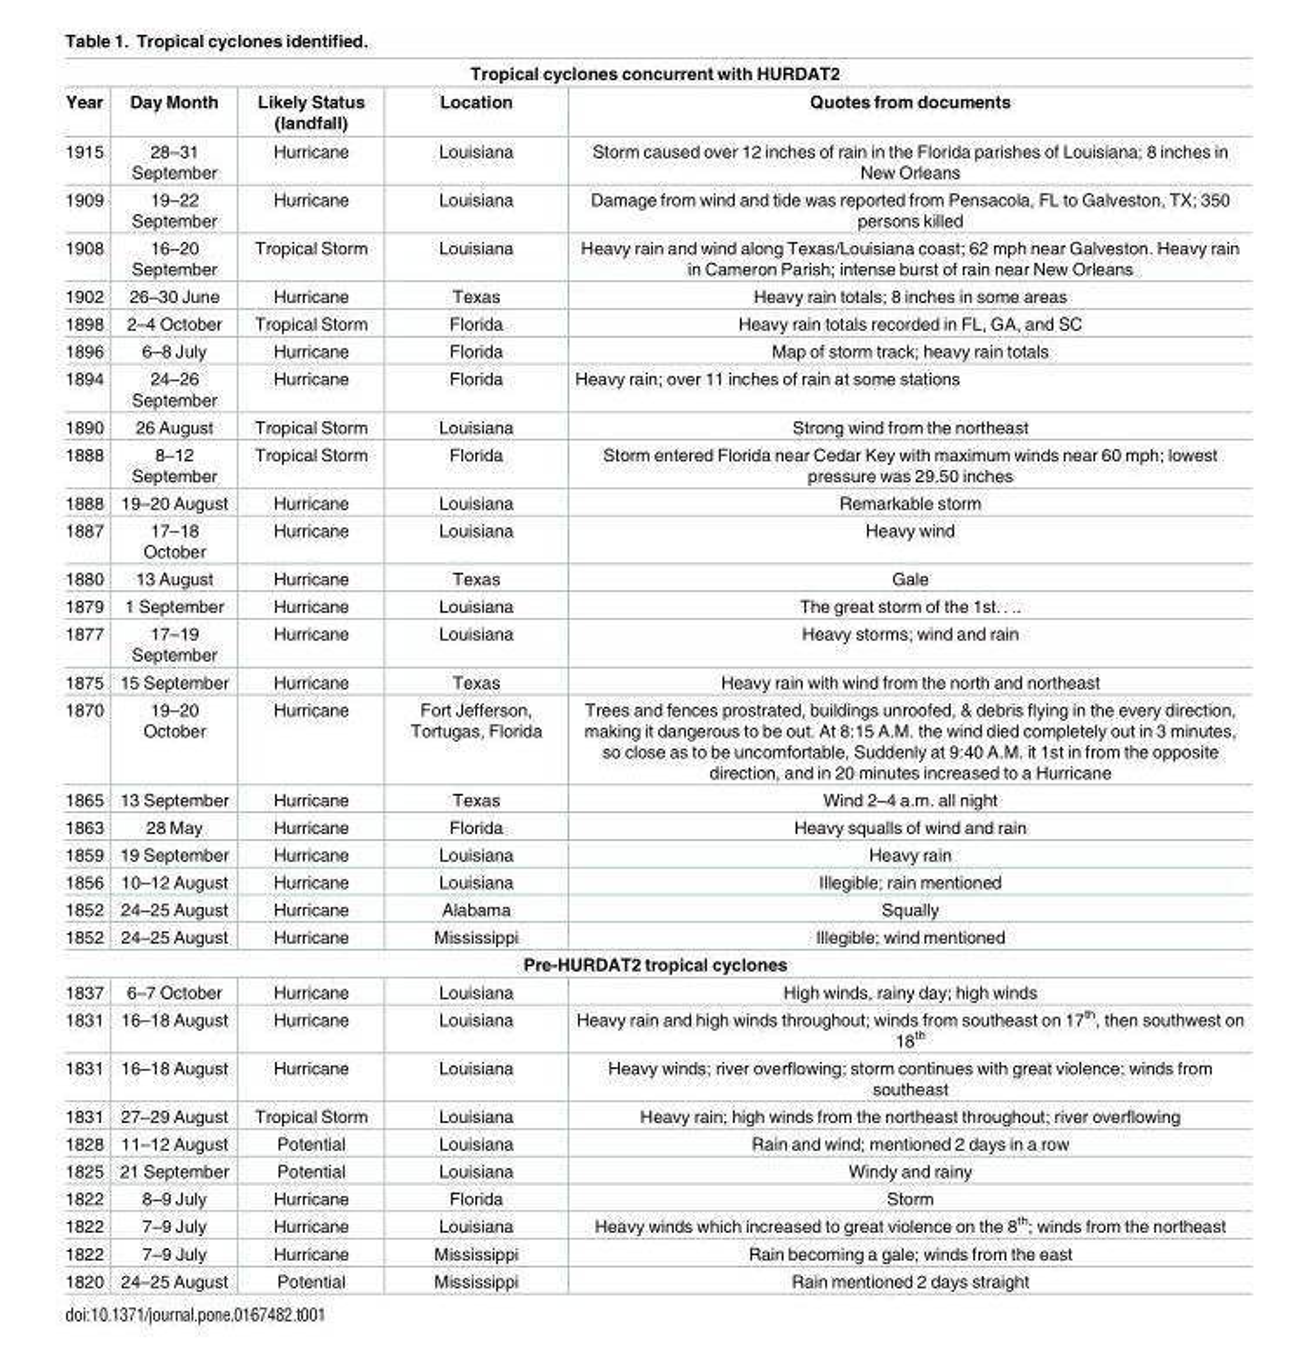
<table><thead><tr><td colspan="5">Tropical cyclones concurrent with HURDAT2</td></tr><tr><td>Year</td><td>Day Month</td><td>Likely Status (landfall)</td><td>Location</td><td>Quotes from documents</td></tr></thead><tbody><tr><td>1915</td><td>28–31 September</td><td>Hurricane</td><td>Louisiana</td><td>Storm caused over 12 inches of rain in the Florida parishes of Louisiana; 8 inches in New Orleans</td></tr><tr><td>1909</td><td>19–22 September</td><td>Hurricane</td><td>Louisiana</td><td>Damage from wind and tide was reported from Pensacola, FL to Galveston, TX; 350 persons killed</td></tr><tr><td>1908</td><td>16–20 September</td><td>Tropical Storm</td><td>Louisiana</td><td>Heavy rain and wind along Texas/Louisiana coast; 62 mph near Galveston. Heavy rain in Cameron Parish; intense burst of rain near New Orleans</td></tr><tr><td>1902</td><td>26–30 June</td><td>Hurricane</td><td>Texas</td><td>Heavy rain totals; 8 inches in some areas</td></tr><tr><td>1898</td><td>2–4 October</td><td>Tropical Storm</td><td>Florida</td><td>Heavy rain totals recorded in FL, GA, and SC</td></tr><tr><td>1896</td><td>6–8 July</td><td>Hurricane</td><td>Florida</td><td>Map of storm track; heavy rain totals</td></tr><tr><td>1894</td><td>24–26 September</td><td>Hurricane</td><td>Florida</td><td>Heavy rain; over 11 inches of rain at some stations</td></tr><tr><td>1890</td><td>26 August</td><td>Tropical Storm</td><td>Louisiana</td><td>Strong wind from the northeast</td></tr><tr><td>1888</td><td>8–12 September</td><td>Tropical Storm</td><td>Florida</td><td>Storm entered Florida near Cedar Key with maximum winds near 60 mph; lowest pressure was 29.50 inches</td></tr><tr><td>1888</td><td>19–20 August</td><td>Hurricane</td><td>Louisiana</td><td>Remarkable storm</td></tr><tr><td>1887</td><td>17–18 October</td><td>Hurricane</td><td>Louisiana</td><td>Heavy wind</td></tr><tr><td>1880</td><td>13 August</td><td>Hurricane</td><td>Texas</td><td>Gale</td></tr><tr><td>1879</td><td>1 September</td><td>Hurricane</td><td>Louisiana</td><td>The great storm of the 1st. . ..</td></tr><tr><td>1877</td><td>17–19 September</td><td>Hurricane</td><td>Louisiana</td><td>Heavy storms; wind and rain</td></tr><tr><td>1875</td><td>15 September</td><td>Hurricane</td><td>Texas</td><td>Heavy rain with wind from the north and northeast</td></tr><tr><td>1870</td><td>19–20 October</td><td>Hurricane</td><td>Fort Jefferson, Tortugas, Florida</td><td>Trees and fences prostrated, buildings unroofed, &amp; debris flying in the every direction, making it dangerous to be out. At 8:15 A.M. the wind died completely out in 3 minutes, so close as to be uncomfortable, Suddenly at 9:40 A.M. it 1st in from the opposite direction, and in 20 minutes increased to a Hurricane</td></tr><tr><td>1865</td><td>13 September</td><td>Hurricane</td><td>Texas</td><td>Wind 2–4 a.m. all night</td></tr><tr><td>1863</td><td>28 May</td><td>Hurricane</td><td>Florida</td><td>Heavy squalls of wind and rain</td></tr><tr><td>1859</td><td>19 September</td><td>Hurricane</td><td>Louisiana</td><td>Heavy rain</td></tr><tr><td>1856</td><td>10–12 August</td><td>Hurricane</td><td>Louisiana</td><td>Illegible; rain mentioned</td></tr><tr><td>1852</td><td>24–25 August</td><td>Hurricane</td><td>Alabama</td><td>Squally</td></tr><tr><td>1852</td><td>24–25 August</td><td>Hurricane</td><td>Mississippi</td><td>Illegible; wind mentioned</td></tr><tr><td colspan="5">Pre-HURDAT2 tropical cyclones</td></tr><tr><td>1837</td><td>6–7 October</td><td>Hurricane</td><td>Louisiana</td><td>High winds, rainy day; high winds</td></tr><tr><td>1831</td><td>16–18 August</td><td>Hurricane</td><td>Louisiana</td><td>Heavy rain and high winds throughout; winds from southeast on 17<sup>th</sup>, then southwest on 18<sup>th</sup></td></tr><tr><td>1831</td><td>16–18 August</td><td>Hurricane</td><td>Louisiana</td><td>Heavy winds; river overflowing; storm continues with great violence; winds from southeast</td></tr><tr><td>1831</td><td>27–29 August</td><td>Tropical Storm</td><td>Louisiana</td><td>Heavy rain; high winds from the northeast throughout; river overflowing</td></tr><tr><td>1828</td><td>11–12 August</td><td>Potential</td><td>Louisiana</td><td>Rain and wind; mentioned 2 days in a row</td></tr><tr><td>1825</td><td>21 September</td><td>Potential</td><td>Louisiana</td><td>Windy and rainy</td></tr><tr><td>1822</td><td>8–9 July</td><td>Hurricane</td><td>Florida</td><td>Storm</td></tr><tr><td>1822</td><td>7–9 July</td><td>Hurricane</td><td>Louisiana</td><td>Heavy winds which increased to great violence on the 8<sup>th</sup>; winds from the northeast</td></tr><tr><td>1822</td><td>7–9 July</td><td>Hurricane</td><td>Mississippi</td><td>Rain becoming a gale; winds from the east</td></tr><tr><td>1820</td><td>24–25 August</td><td>Potential</td><td>Mississippi</td><td>Rain mentioned 2 days straight</td></tr></tbody></table>